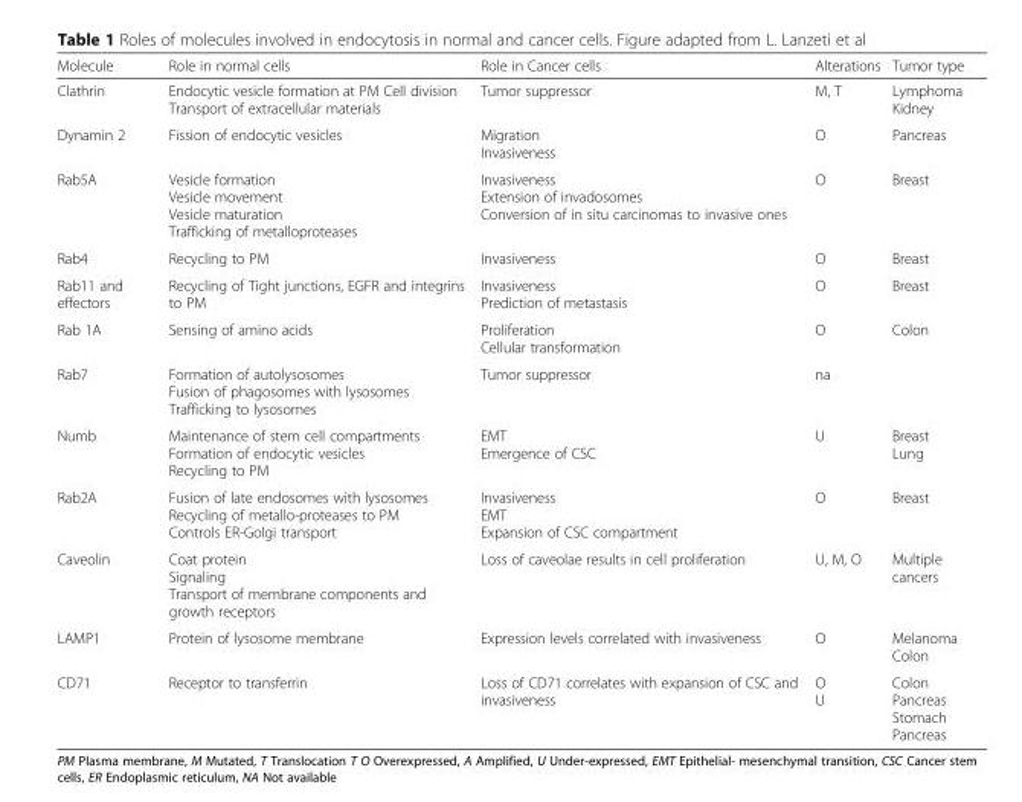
<table><thead><tr><td>Molecule</td><td>Role in normal cells</td><td>Role in Cancer cells</td><td>Alterations</td><td>Tumor type</td></tr></thead><tbody><tr><td>Clathrin</td><td>Endocytic vesicle formation at PM Cell division Transport of extracellular materials</td><td>Tumor suppressor</td><td>M, T</td><td>Lymphoma Kidney</td></tr><tr><td>Dynamin 2</td><td>Fission of endocytic vesicles</td><td>Migration Invasiveness</td><td>O</td><td>Pancreas</td></tr><tr><td>Rab5A</td><td>Vesicle formation Vesicle movement Vesicle maturation Trafficking of metalloproteases</td><td>Invasiveness Extension of invadosomes Conversion of in situ carcinomas to invasive ones</td><td>O</td><td>Breast</td></tr><tr><td>Rab4</td><td>Recycling to PM</td><td>Invasiveness</td><td>O</td><td>Breast</td></tr><tr><td>Rab11 and effectors</td><td>Recycling of Tight junctions, EGFR and integrins to PM</td><td>Invasiveness Prediction of metastasis</td><td>O</td><td>Breast</td></tr><tr><td>Rab 1A</td><td>Sensing of amino acids</td><td>Proliferation Cellular transformation</td><td>O</td><td>Colon</td></tr><tr><td>Rab7</td><td>Formation of autolysosomes Fusion of phagosomes with lysosomes Trafficking to lysosomes</td><td>Tumor suppressor</td><td>na</td><td></td></tr><tr><td>Numb</td><td>Maintenance of stem cell compartments Formation of endocytic vesicles Recycling to PM</td><td>EMT Emergence of CSC</td><td>U</td><td>Breast Lung</td></tr><tr><td>Rab2A</td><td>Fusion of late endosomes with lysosomes Recycling of metallo-proteases to PM Controls ER-Golgi transport</td><td>Invasiveness EMT Expansion of CSC compartment</td><td>O</td><td>Breast</td></tr><tr><td>Caveolin</td><td>Coat protein Signaling Transport of membrane components and growth receptors</td><td>Loss of caveolae results in cell proliferation</td><td>U, M, O</td><td>Multiple cancers</td></tr><tr><td>LAMP1</td><td>Protein of lysosome membrane</td><td>Expression levels correlated with invasiveness</td><td>O</td><td>Melanoma Colon</td></tr><tr><td>CD71</td><td>Receptor to transferrin</td><td>Loss of CD71 correlates with expansion of CSC and invasiveness</td><td>O U</td><td>Colon Pancreas Stomach Pancreas</td></tr></tbody></table>